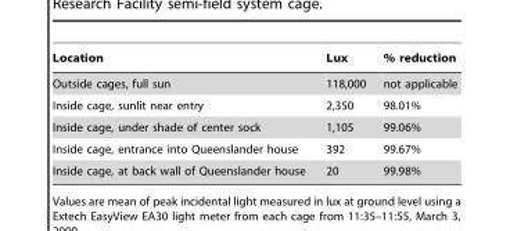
<table><thead><tr><td>Location</td><td>Lux</td><td>% reduction</td></tr></thead><tbody><tr><td>Outside cages, full sun</td><td>118,000</td><td>not applicable</td></tr><tr><td>Inside cage, sunlit near entry</td><td>2,350</td><td>98.01%</td></tr><tr><td>Inside cage, under shade of center sock</td><td>1,105</td><td>99.06%</td></tr><tr><td>Inside cage, entrance into Queenslander house</td><td>392</td><td>99.67%</td></tr><tr><td>Inside cage, at back wall of Queenslander house</td><td>20</td><td>99.98%</td></tr></tbody></table>